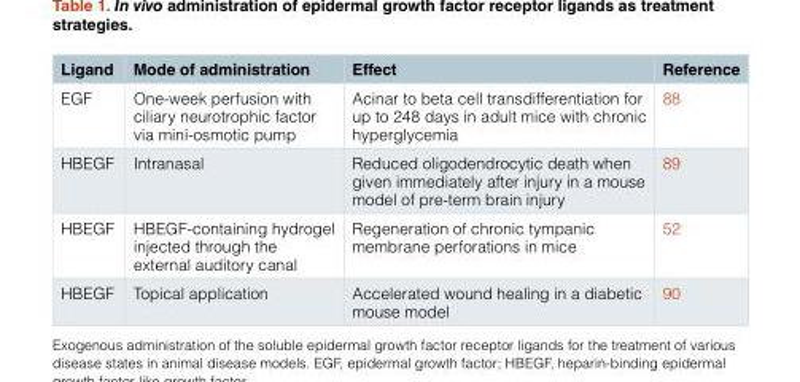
<table><thead><tr><td>Ligand</td><td>Mode of administration</td><td>Effect</td><td>Reference</td></tr></thead><tbody><tr><td>EGF</td><td>One-week perfusion with ciliary neurotrophic factor via mini-osmotic pump</td><td>Acinar to beta cell transdifferentiation for up to 248 days in adult mice with chronic hyperglycemia</td><td>88</td></tr><tr><td>HBEGF</td><td>Intranasal</td><td>Reduced oligodendrocytic death when given immediately after injury in a mouse model of pre-term brain injury</td><td>89</td></tr><tr><td>HBEGF</td><td>HBEGF-containing hydrogel injected through the external auditory canal</td><td>Regeneration of chronic tympanic membrane perforations in mice</td><td>52</td></tr><tr><td>HBEGF</td><td>Topical application</td><td>Accelerated wound healing in a diabetic mouse model</td><td>90</td></tr></tbody></table>